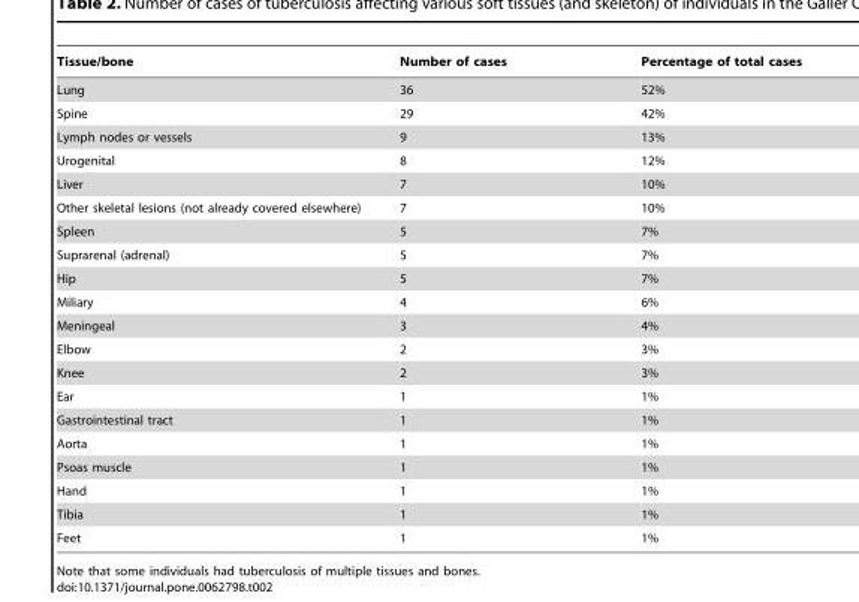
<table><thead><tr><td>Tissue/bone</td><td>Number of cases</td><td>Percentage of total cases</td></tr></thead><tbody><tr><td>Lung</td><td>36</td><td>52%</td></tr><tr><td>Spine</td><td>29</td><td>42%</td></tr><tr><td>Lymph nodes or vessels</td><td>9</td><td>13%</td></tr><tr><td>Urogenital</td><td>8</td><td>12%</td></tr><tr><td>Liver</td><td>7</td><td>10%</td></tr><tr><td>Other skeletal lesions (not already covered elsewhere)</td><td>7</td><td>10%</td></tr><tr><td>Spleen</td><td>5</td><td>7%</td></tr><tr><td>Suprarenal (adrenal)</td><td>5</td><td>7%</td></tr><tr><td>Hip</td><td>5</td><td>7%</td></tr><tr><td>Miliary</td><td>4</td><td>6%</td></tr><tr><td>Meningeal</td><td>3</td><td>4%</td></tr><tr><td>Elbow</td><td>2</td><td>3%</td></tr><tr><td>Knee</td><td>2</td><td>3%</td></tr><tr><td>Ear</td><td>1</td><td>1%</td></tr><tr><td>Gastrointestinal tract</td><td>1</td><td>1%</td></tr><tr><td>Aorta</td><td>1</td><td>1%</td></tr><tr><td>Psoas muscle</td><td>1</td><td>1%</td></tr><tr><td>Hand</td><td>1</td><td>1%</td></tr><tr><td>Tibia</td><td>1</td><td>1%</td></tr><tr><td>Feet</td><td>1</td><td>1%</td></tr></tbody></table>